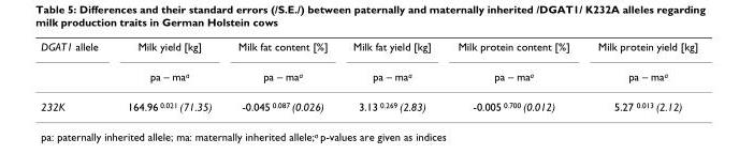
<table><thead><tr><td rowspan="2">DGAT1 allele</td><td rowspan="2">Milk yield [kg] pa – ma<sup>a</sup></td><td rowspan="2">Milk fat content [%] pa – ma<sup>a</sup></td><td rowspan="2">Milk fat yield [kg] pa – ma<sup>a</sup></td><td rowspan="2">Milk protein content [%] pa – ma<sup>a</sup></td><td rowspan="2">Milk protein yield [kg] pa – ma<sup>a</sup></td></tr><tr></tr></thead><tbody><tr><td>232K</td><td>164.96 <sup>0.021</sup> (71.35)</td><td>-0.045 <sup>0.087</sup> (0.026)</td><td>3.13 <sup>0.269</sup> (2.83)</td><td>-0.005 <sup>0.700</sup> (0.012)</td><td>5.27 <sup>0.013</sup> (2.12)</td></tr></tbody></table>